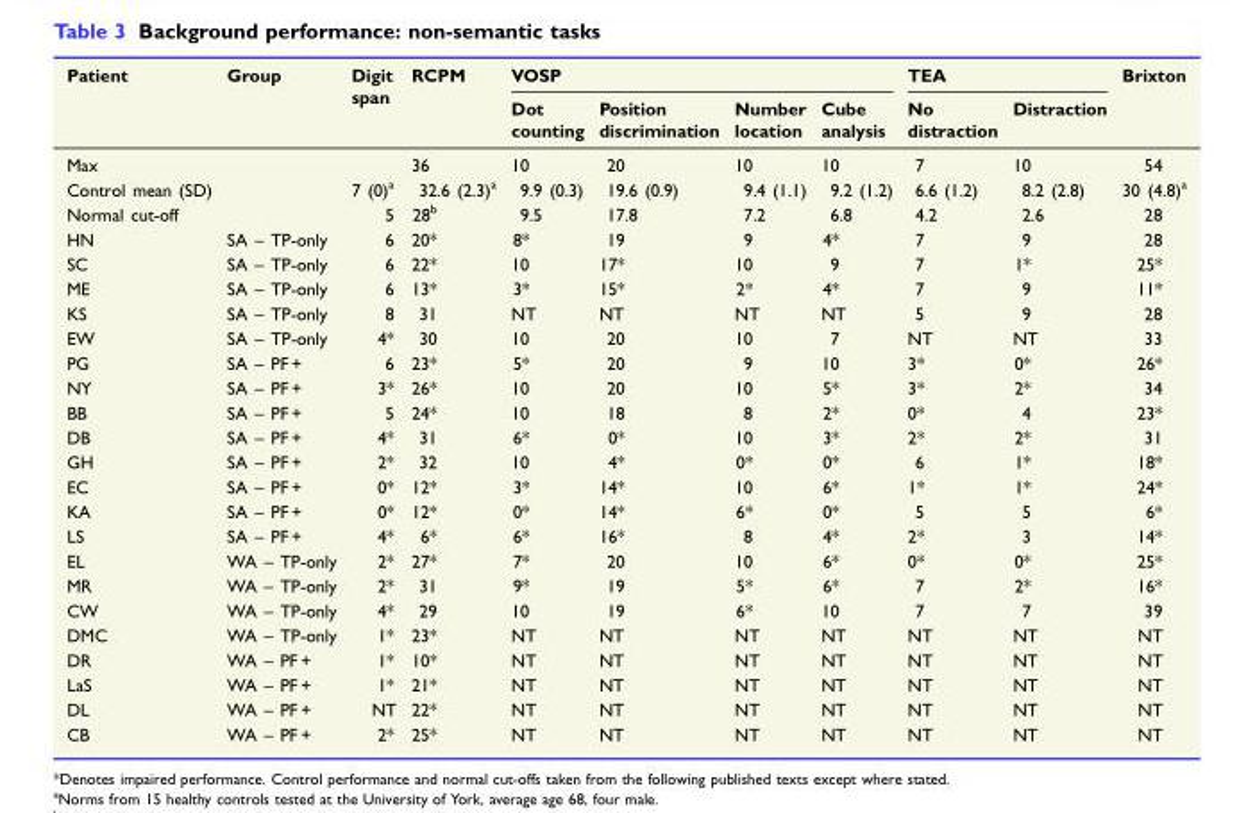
<table><thead><tr><td rowspan="2">Patient</td><td rowspan="2">Group</td><td rowspan="2">Digit span</td><td rowspan="2">RCPM</td><td colspan="4">VOSP</td><td colspan="2">TEA</td><td rowspan="2">Brixton</td></tr><tr><td>Dot counting</td><td>Position discrimination</td><td>Number location</td><td>Cube analysis</td><td>No distraction</td><td>Distraction</td></tr></thead><tbody><tr><td>Max</td><td></td><td></td><td>36</td><td>10</td><td>20</td><td>10</td><td>10</td><td>7</td><td>10</td><td>54</td></tr><tr><td>Control mean (SD)</td><td></td><td>7 (0)<sup>a</sup></td><td>32.6 (2.3)<sup>a</sup></td><td>9.9 (0.3)</td><td>19.6 (0.9)</td><td>9.4 (1.1)</td><td>9.2 (1.2)</td><td>6.6 (1.2)</td><td>8.2 (2.8)</td><td>30 (4.8)<sup>a</sup></td></tr><tr><td>Normal cut-off</td><td></td><td>5</td><td>28<sup>b</sup></td><td>9.5</td><td>17.8</td><td>7.2</td><td>6.8</td><td>4.2</td><td>2.6</td><td>28</td></tr><tr><td>HN</td><td>SA – TP-only</td><td>6</td><td>20*</td><td>8*</td><td>19</td><td>9</td><td>4*</td><td>7</td><td>9</td><td>28</td></tr><tr><td>SC</td><td>SA – TP-only</td><td>6</td><td>22*</td><td>10</td><td>17*</td><td>10</td><td>9</td><td>7</td><td>1*</td><td>25*</td></tr><tr><td>ME</td><td>SA – TP-only</td><td>6</td><td>13*</td><td>3*</td><td>15*</td><td>2*</td><td>4*</td><td>7</td><td>9</td><td>11*</td></tr><tr><td>KS</td><td>SA – TP-only</td><td>8</td><td>31</td><td>NT</td><td>NT</td><td>NT</td><td>NT</td><td>5</td><td>9</td><td>28</td></tr><tr><td>EW</td><td>SA – TP-only</td><td>4*</td><td>30</td><td>10</td><td>20</td><td>10</td><td>7</td><td>NT</td><td>NT</td><td>33</td></tr><tr><td>PG</td><td>SA – PF +</td><td>6</td><td>23*</td><td>5*</td><td>20</td><td>9</td><td>10</td><td>3*</td><td>0*</td><td>26*</td></tr><tr><td>NY</td><td>SA – PF +</td><td>3*</td><td>26*</td><td>10</td><td>20</td><td>10</td><td>5*</td><td>3*</td><td>2*</td><td>34</td></tr><tr><td>BB</td><td>SA – PF +</td><td>5</td><td>24*</td><td>10</td><td>18</td><td>8</td><td>2*</td><td>0*</td><td>4</td><td>23*</td></tr><tr><td>DB</td><td>SA – PF +</td><td>4*</td><td>31</td><td>6*</td><td>0*</td><td>10</td><td>3*</td><td>2*</td><td>2*</td><td>31</td></tr><tr><td>GH</td><td>SA – PF +</td><td>2*</td><td>32</td><td>10</td><td>4*</td><td>0*</td><td>0*</td><td>6</td><td>1*</td><td>18*</td></tr><tr><td>EC</td><td>SA – PF +</td><td>0*</td><td>12*</td><td>3*</td><td>14*</td><td>10</td><td>6*</td><td>1*</td><td>1*</td><td>24*</td></tr><tr><td>KA</td><td>SA – PF +</td><td>0*</td><td>12*</td><td>0*</td><td>14*</td><td>6*</td><td>0*</td><td>5</td><td>5</td><td>6*</td></tr><tr><td>LS</td><td>SA – PF +</td><td>4*</td><td>6*</td><td>6*</td><td>16*</td><td>8</td><td>4*</td><td>2*</td><td>3</td><td>14*</td></tr><tr><td>EL</td><td>WA – TP-only</td><td>2*</td><td>27*</td><td>7*</td><td>20</td><td>10</td><td>6*</td><td>0*</td><td>0*</td><td>25*</td></tr><tr><td>MR</td><td>WA – TP-only</td><td>2*</td><td>31</td><td>9*</td><td>19</td><td>5*</td><td>6*</td><td>7</td><td>2*</td><td>16*</td></tr><tr><td>CW</td><td>WA – TP-only</td><td>4*</td><td>29</td><td>10</td><td>19</td><td>6*</td><td>10</td><td>7</td><td>7</td><td>39</td></tr><tr><td>DMC</td><td>WA – TP-only</td><td>1*</td><td>23*</td><td>NT</td><td>NT</td><td>NT</td><td>NT</td><td>NT</td><td>NT</td><td>NT</td></tr><tr><td>DR</td><td>WA – PF +</td><td>1*</td><td>10*</td><td>NT</td><td>NT</td><td>NT</td><td>NT</td><td>NT</td><td>NT</td><td>NT</td></tr><tr><td>LaS</td><td>WA – PF +</td><td>1*</td><td>21*</td><td>NT</td><td>NT</td><td>NT</td><td>NT</td><td>NT</td><td>NT</td><td>NT</td></tr><tr><td>DL</td><td>WA – PF +</td><td>NT</td><td>22*</td><td>NT</td><td>NT</td><td>NT</td><td>NT</td><td>NT</td><td>NT</td><td>NT</td></tr><tr><td>CB</td><td>WA – PF +</td><td>2*</td><td>25*</td><td>NT</td><td>NT</td><td>NT</td><td>NT</td><td>NT</td><td>NT</td><td>NT</td></tr></tbody></table>